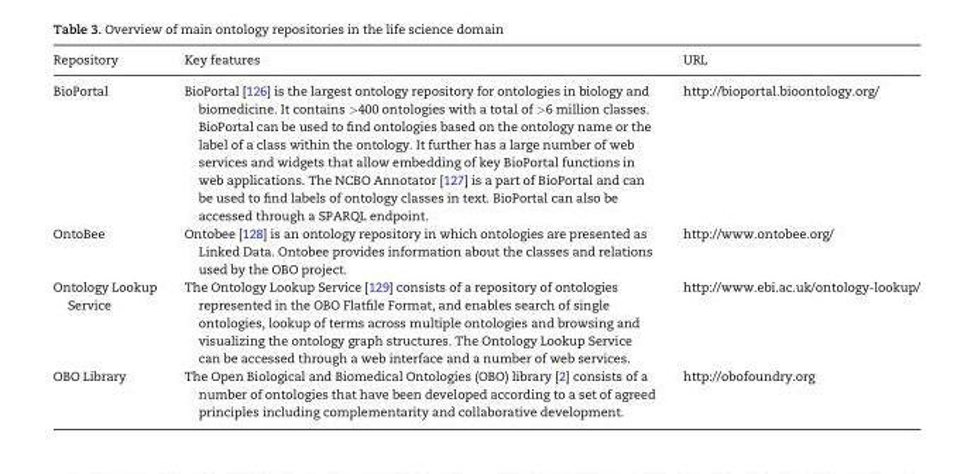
<table><thead><tr><td>Repository</td><td>Key features</td><td>URL</td></tr></thead><tbody><tr><td>BioPortal</td><td>BioPortal [126] is the largest ontology repository for ontologies in biology and biomedicine. It contains &gt;400 ontologies with a total of &gt;6 million classes. BioPortal can be used to find ontologies based on the ontology name or the label of a class within the ontology. It further has a large number of web services and widgets that allow embedding of key BioPortal functions in web applications. The NCBO Annotator [127] is a part of BioPortal and can be used to find labels of ontology classes in text. BioPortal can also be accessed through a SPARQL endpoint.</td><td>http://bioportal.bioontology.org/</td></tr><tr><td>OntoBee</td><td>Ontobee [128] is an ontology repository in which ontologies are presented as Linked Data. Ontobee provides information about the classes and relations used by the OBO project.</td><td>http://www.ontobee.org/</td></tr><tr><td>Ontology Lookup Service</td><td>The Ontology Lookup Service [129] consists of a repository of ontologies represented in the OBO Flatfile Format, and enables search of single ontologies, lookup of terms across multiple ontologies and browsing and visualizing the ontology graph structures. The Ontology Lookup Service can be accessed through a web interface and a number of web services.</td><td>http://www.ebi.ac.uk/ontology-lookup/</td></tr><tr><td>OBO Library</td><td>The Open Biological and Biomedical Ontologies (OBO) library [2] consists of a number of ontologies that have been developed according to a set of agreed principles including complementarity and collaborative development.</td><td>http://obofoundry.org</td></tr></tbody></table>